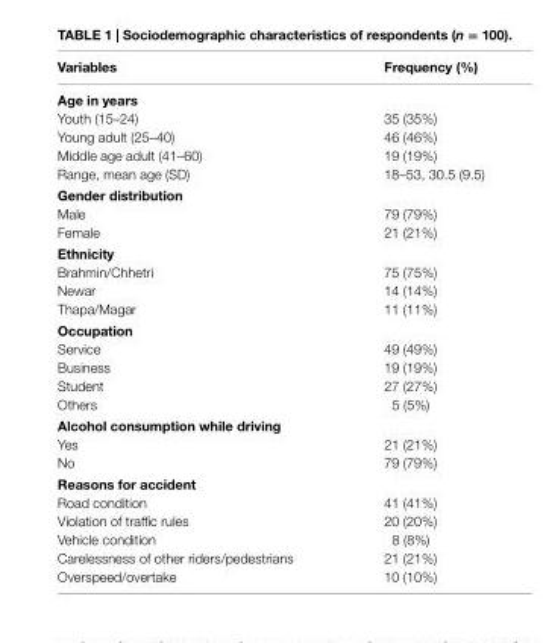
<table><thead><tr><td>Variables</td><td>Frequency (%)</td></tr></thead><tbody><tr><td colspan="2">age in years</td></tr><tr><td>Youth (15–24)</td><td>35 (35%)</td></tr><tr><td>Young adult (25–40)</td><td>46 (46%)</td></tr><tr><td>Middle age adult (41–60)</td><td>19 (19%)</td></tr><tr><td>Range, mean age (SD)</td><td>18–53, 30.5 (9.5)</td></tr><tr><td colspan="2">gender distribution</td></tr><tr><td>Male</td><td>79 (79%)</td></tr><tr><td>Female</td><td>21 (21%)</td></tr><tr><td colspan="2">ethnicity</td></tr><tr><td>Brahmin/Chhetri</td><td>75 (75%)</td></tr><tr><td>Newar</td><td>14 (14%)</td></tr><tr><td>Thapa/Magar</td><td>11 (11%)</td></tr><tr><td colspan="2">Occupation</td></tr><tr><td>Service</td><td>49 (49%)</td></tr><tr><td>Business</td><td>19 (19%)</td></tr><tr><td>Student</td><td>27 (27%)</td></tr><tr><td>Others</td><td>5 (5%)</td></tr><tr><td colspan="2">alcohol consumption while driving</td></tr><tr><td>Yes</td><td>21 (21%)</td></tr><tr><td>No</td><td>79 (79%)</td></tr><tr><td colspan="2">reasons for accident</td></tr><tr><td>Road condition</td><td>41 (41%)</td></tr><tr><td>Violation of traffic rules</td><td>20 (20%)</td></tr><tr><td>Vehicle condition</td><td>8 (8%)</td></tr><tr><td>Carelessness of other riders/pedestrians</td><td>21 (21%)</td></tr><tr><td>Overspeed/overtake</td><td>10 (10%)</td></tr></tbody></table>